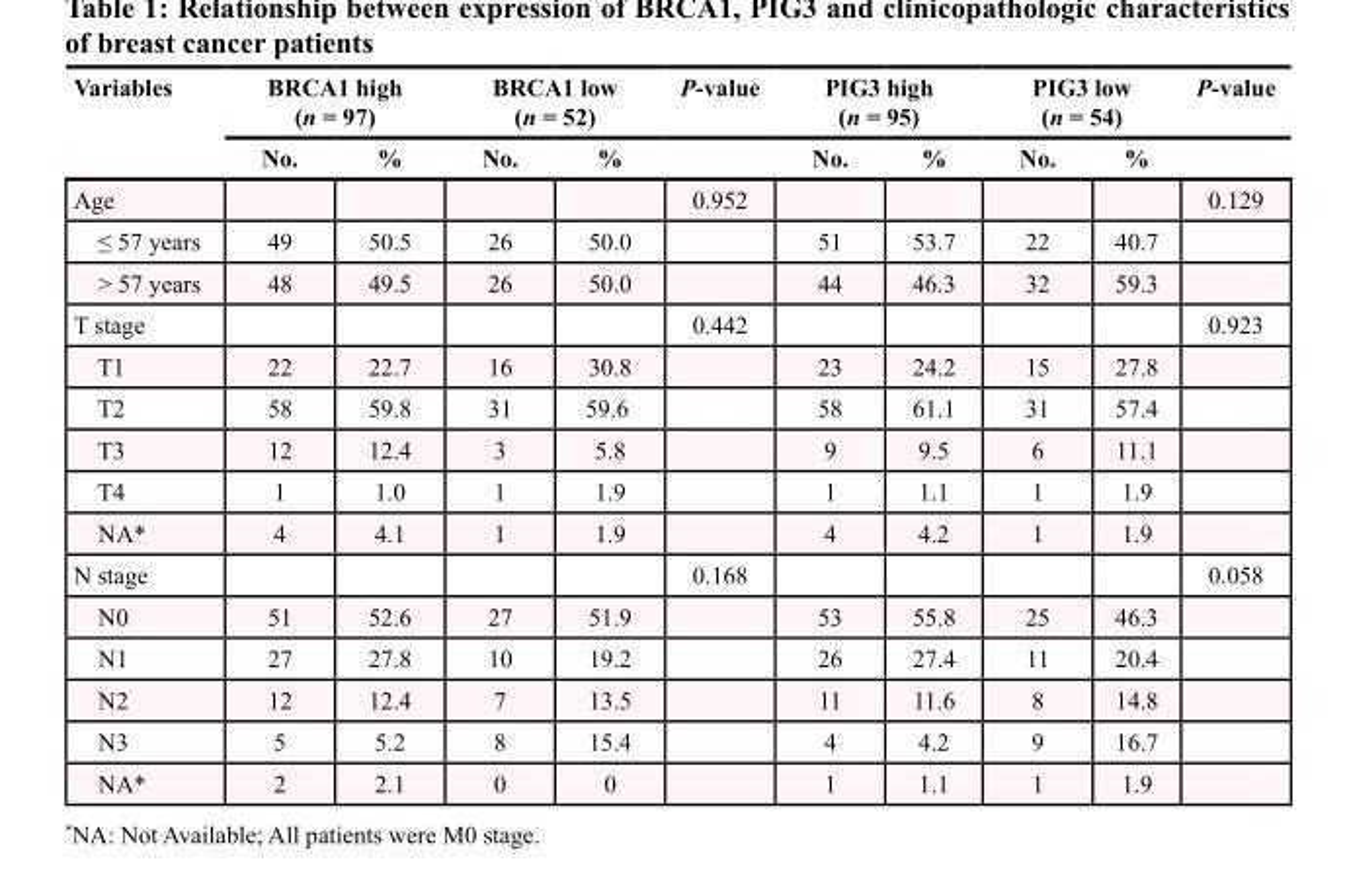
<table><thead><tr><td rowspan="2">Variables</td><td colspan="2">BRCA1 high (n = 97)</td><td colspan="2">BRCA1 low (n = 52)</td><td rowspan="2">P-value</td><td colspan="2">PIG3 high (n = 95)</td><td colspan="2">PIG3 low (n = 54)</td><td rowspan="2">P-value</td></tr><tr><td>No.</td><td>%</td><td>No.</td><td>%</td><td>No.</td><td>%</td><td>No.</td><td>%</td></tr></thead><tbody><tr><td>Age</td><td></td><td></td><td></td><td></td><td>0.952</td><td></td><td></td><td></td><td></td><td>0.129</td></tr><tr><td>≤ 57 years</td><td>49</td><td>50.5</td><td>26</td><td>50.0</td><td></td><td>51</td><td>53.7</td><td>22</td><td>40.7</td><td></td></tr><tr><td>&gt; 57 years</td><td>48</td><td>49.5</td><td>26</td><td>50.0</td><td></td><td>44</td><td>46.3</td><td>32</td><td>59.3</td><td></td></tr><tr><td>T stage</td><td></td><td></td><td></td><td></td><td>0.442</td><td></td><td></td><td></td><td></td><td>0.923</td></tr><tr><td>T1</td><td>22</td><td>22.7</td><td>16</td><td>30.8</td><td></td><td>23</td><td>24.2</td><td>15</td><td>27.8</td><td></td></tr><tr><td>T2</td><td>58</td><td>59.8</td><td>31</td><td>59.6</td><td></td><td>58</td><td>61.1</td><td>31</td><td>57.4</td><td></td></tr><tr><td>T3</td><td>12</td><td>12.4</td><td>3</td><td>5.8</td><td></td><td>9</td><td>9.5</td><td>6</td><td>11.1</td><td></td></tr><tr><td>T4</td><td>1</td><td>1.0</td><td>1</td><td>1.9</td><td></td><td>1</td><td>1.1</td><td>1</td><td>1.9</td><td></td></tr><tr><td>NA*</td><td>4</td><td>4.1</td><td>1</td><td>1.9</td><td></td><td>4</td><td>4.2</td><td>1</td><td>1.9</td><td></td></tr><tr><td>N stage</td><td></td><td></td><td></td><td></td><td>0.168</td><td></td><td></td><td></td><td></td><td>0.058</td></tr><tr><td>N0</td><td>51</td><td>52.6</td><td>27</td><td>51.9</td><td></td><td>53</td><td>55.8</td><td>25</td><td>46.3</td><td></td></tr><tr><td>N1</td><td>27</td><td>27.8</td><td>10</td><td>19.2</td><td></td><td>26</td><td>27.4</td><td>11</td><td>20.4</td><td></td></tr><tr><td>N2</td><td>12</td><td>12.4</td><td>7</td><td>13.5</td><td></td><td>11</td><td>11.6</td><td>8</td><td>14.8</td><td></td></tr><tr><td>N3</td><td>5</td><td>5.2</td><td>8</td><td>15.4</td><td></td><td>4</td><td>4.2</td><td>9</td><td>16.7</td><td></td></tr><tr><td>NA*</td><td>2</td><td>2.1</td><td>0</td><td>0</td><td></td><td>1</td><td>1.1</td><td>1</td><td>1.9</td><td></td></tr></tbody></table>